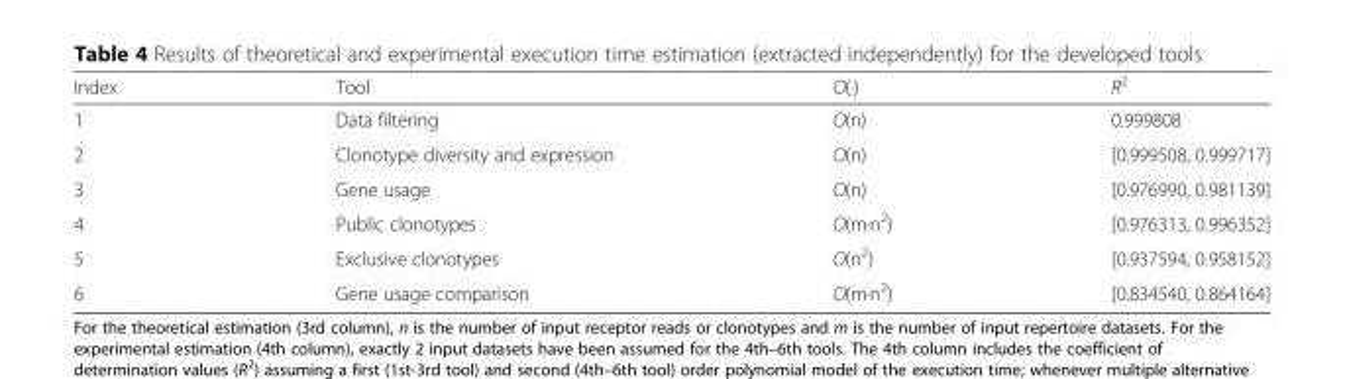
<table><thead><tr><td>Index</td><td>Tool</td><td>O(·)</td><td>R<sup>2</sup></td></tr></thead><tbody><tr><td>1</td><td>Data filtering</td><td>O(n)</td><td>0.999808</td></tr><tr><td>2</td><td>Clonotype diversity and expression</td><td>O(n)</td><td>[0.999508, 0.999717]</td></tr><tr><td>3</td><td>Gene usage</td><td>O(n)</td><td>[0.976990, 0.981139]</td></tr><tr><td>4</td><td>Public clonotypes</td><td>O(m·n<sup>2</sup>)</td><td>[0.976313, 0.996352]</td></tr><tr><td>5</td><td>Exclusive clonotypes</td><td>O(n<sup>2</sup>)</td><td>[0.937594, 0.958152]</td></tr><tr><td>6</td><td>Gene usage comparison</td><td>O(m·n<sup>2</sup>)</td><td>[0.834540, 0.864164]</td></tr></tbody></table>